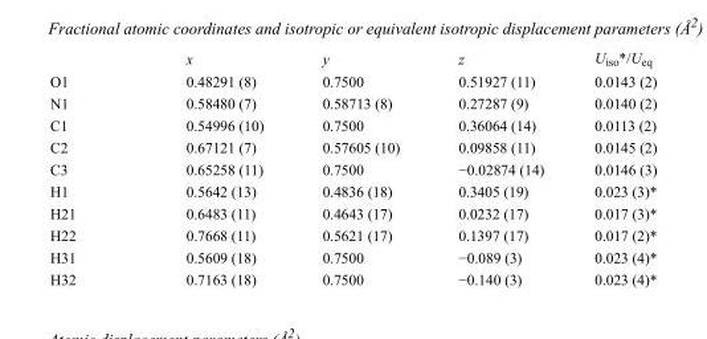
<table><thead><tr><td></td><td>x</td><td>y</td><td>z</td><td>U<sub>iso</sub>*/U<sub>eq</sub></td></tr></thead><tbody><tr><td>O1</td><td>0.48291 (8)</td><td>0.7500</td><td>0.51927 (11)</td><td>0.0143 (2)</td></tr><tr><td>N1</td><td>0.58480 (7)</td><td>0.58713 (8)</td><td>0.27287 (9)</td><td>0.0140 (2)</td></tr><tr><td>C1</td><td>0.54996 (10)</td><td>0.7500</td><td>0.36064 (14)</td><td>0.0113 (2)</td></tr><tr><td>C2</td><td>0.67121 (7)</td><td>0.57605 (10)</td><td>0.09858 (11)</td><td>0.0145 (2)</td></tr><tr><td>C3</td><td>0.65258 (11)</td><td>0.7500</td><td>−0.02874 (14)</td><td>0.0146 (3)</td></tr><tr><td>H1</td><td>0.5642 (13)</td><td>0.4836 (18)</td><td>0.3405 (19)</td><td>0.023 (3)*</td></tr><tr><td>H21</td><td>0.6483 (11)</td><td>0.4643 (17)</td><td>0.0232 (17)</td><td>0.017 (3)*</td></tr><tr><td>H22</td><td>0.7668 (11)</td><td>0.5621 (17)</td><td>0.1397 (17)</td><td>0.017 (2)*</td></tr><tr><td>H31</td><td>0.5609 (18)</td><td>0.7500</td><td>−0.089 (3)</td><td>0.023 (4)*</td></tr><tr><td>H32</td><td>0.7163 (18)</td><td>0.7500</td><td>−0.140 (3)</td><td>0.023 (4)*</td></tr></tbody></table>